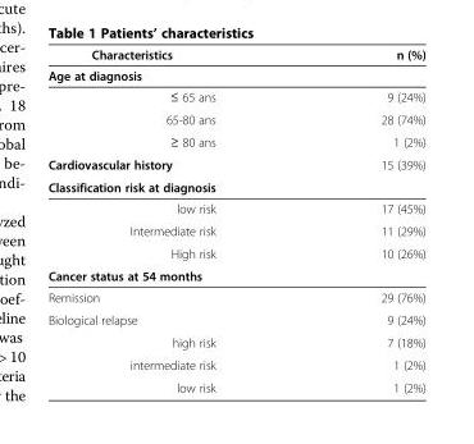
<table><thead><tr><td>Characteristics</td><td>n (%)</td></tr></thead><tbody><tr><td colspan="2">Age at diagnosis</td></tr><tr><td>≤ 65 ans</td><td>9 (24%)</td></tr><tr><td>65-80 ans</td><td>28 (74%)</td></tr><tr><td>≥ 80 ans</td><td>1 (2%)</td></tr><tr><td>Cardiovascular history</td><td>15 (39%)</td></tr><tr><td colspan="2">Classification risk at diagnosis</td></tr><tr><td>low risk</td><td>17 (45%)</td></tr><tr><td>Intermediate risk</td><td>11 (29%)</td></tr><tr><td>High risk</td><td>10 (26%)</td></tr><tr><td colspan="2">Cancer status at 54 months</td></tr><tr><td>Remission</td><td>29 (76%)</td></tr><tr><td>Biological relapse</td><td>9 (24%)</td></tr><tr><td>high risk</td><td>7 (18%)</td></tr><tr><td>intermediate risk</td><td>1 (2%)</td></tr><tr><td>low risk</td><td>1 (2%)</td></tr></tbody></table>